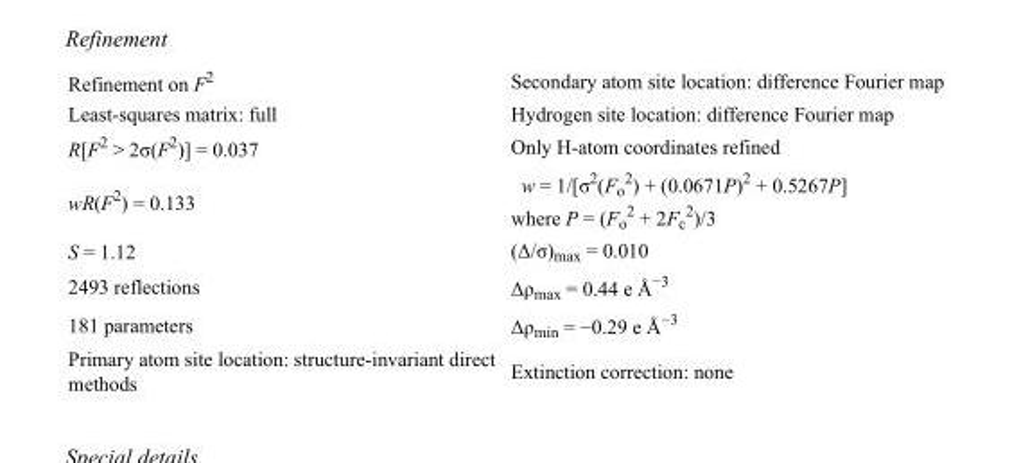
<table><tbody><tr><td>Refinement on F<sup>2</sup></td><td>Secondary atom site location: difference Fourier map</td></tr><tr><td>Least-squares matrix: full</td><td>Hydrogen site location: difference Fourier map</td></tr><tr><td>R[F<sup>2</sup> &gt; 2σ(F<sup>2</sup>)] = 0.037</td><td>Only H-atom coordinates refined</td></tr><tr><td>wR(F<sup>2</sup>) = 0.133</td><td>w = 1/[σ<sup>2</sup>(F<sub>o</sub> <sup>2</sup>) + (0.0671P)<sup>2</sup> + 0.5267P] where P = (F<sub>o</sub> <sup>2</sup> + 2F<sub>c</sub> <sup>2</sup>)/3</td></tr><tr><td>S = 1.12</td><td>(Δ/σ)<sub>max</sub> = 0.010</td></tr><tr><td>2493 reflections</td><td>Δρ<sub>max</sub> = 0.44 e Å<sup>−3</sup></td></tr><tr><td>181 parameters</td><td>Δρ<sub>min</sub> = −0.29 e Å<sup>−3</sup></td></tr><tr><td>Primary atom site location: structure-invariant direct methods</td><td>Extinction correction: none</td></tr></tbody></table>